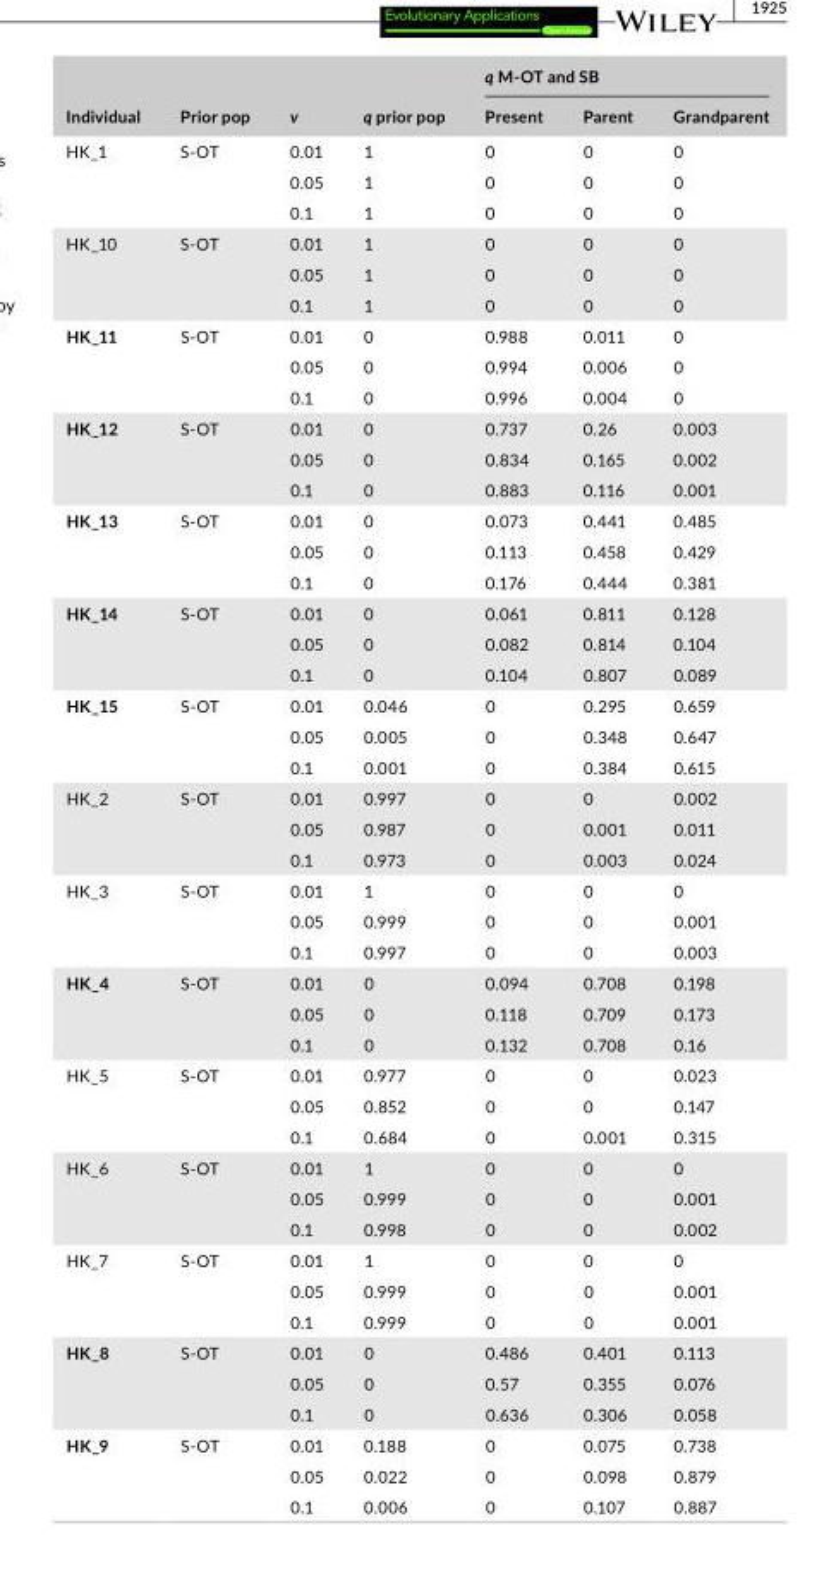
<table><thead><tr><td rowspan="2">Individual</td><td rowspan="2">Prior pop</td><td rowspan="2">v</td><td rowspan="2">q prior pop</td><td colspan="3">q M- OT and SB</td></tr><tr><td>Present</td><td>Parent</td><td>Grandparent</td></tr></thead><tbody><tr><td rowspan="3">HK_1</td><td rowspan="3">S- OT</td><td>0.01</td><td>1</td><td>0</td><td>0</td><td>0</td></tr><tr><td>0.05</td><td>1</td><td>0</td><td>0</td><td>0</td></tr><tr><td>0.1</td><td>1</td><td>0</td><td>0</td><td>0</td></tr><tr><td rowspan="3">HK_10</td><td rowspan="3">S- OT</td><td>0.01</td><td>1</td><td>0</td><td>0</td><td>0</td></tr><tr><td>0.05</td><td>1</td><td>0</td><td>0</td><td>0</td></tr><tr><td>0.1</td><td>1</td><td>0</td><td>0</td><td>0</td></tr><tr><td rowspan="3">HK_11</td><td rowspan="3">S- OT</td><td>0.01</td><td>0</td><td>0.988</td><td>0.011</td><td>0</td></tr><tr><td>0.05</td><td>0</td><td>0.994</td><td>0.006</td><td>0</td></tr><tr><td>0.1</td><td>0</td><td>0.996</td><td>0.004</td><td>0</td></tr><tr><td rowspan="3">HK_12</td><td rowspan="3">S- OT</td><td>0.01</td><td>0</td><td>0.737</td><td>0.26</td><td>0.003</td></tr><tr><td>0.05</td><td>0</td><td>0.834</td><td>0.165</td><td>0.002</td></tr><tr><td>0.1</td><td>0</td><td>0.883</td><td>0.116</td><td>0.001</td></tr><tr><td rowspan="3">HK_13</td><td rowspan="3">S- OT</td><td>0.01</td><td>0</td><td>0.073</td><td>0.441</td><td>0.485</td></tr><tr><td>0.05</td><td>0</td><td>0.113</td><td>0.458</td><td>0.429</td></tr><tr><td>0.1</td><td>0</td><td>0.176</td><td>0.444</td><td>0.381</td></tr><tr><td rowspan="3">HK_14</td><td rowspan="3">S- OT</td><td>0.01</td><td>0</td><td>0.061</td><td>0.811</td><td>0.128</td></tr><tr><td>0.05</td><td>0</td><td>0.082</td><td>0.814</td><td>0.104</td></tr><tr><td>0.1</td><td>0</td><td>0.104</td><td>0.807</td><td>0.089</td></tr><tr><td rowspan="3">HK_15</td><td rowspan="3">S- OT</td><td>0.01</td><td>0.046</td><td>0</td><td>0.295</td><td>0.659</td></tr><tr><td>0.05</td><td>0.005</td><td>0</td><td>0.348</td><td>0.647</td></tr><tr><td>0.1</td><td>0.001</td><td>0</td><td>0.384</td><td>0.615</td></tr><tr><td rowspan="3">HK_2</td><td rowspan="3">S- OT</td><td>0.01</td><td>0.997</td><td>0</td><td>0</td><td>0.002</td></tr><tr><td>0.05</td><td>0.987</td><td>0</td><td>0.001</td><td>0.011</td></tr><tr><td>0.1</td><td>0.973</td><td>0</td><td>0.003</td><td>0.024</td></tr><tr><td rowspan="3">HK_3</td><td rowspan="3">S- OT</td><td>0.01</td><td>1</td><td>0</td><td>0</td><td>0</td></tr><tr><td>0.05</td><td>0.999</td><td>0</td><td>0</td><td>0.001</td></tr><tr><td>0.1</td><td>0.997</td><td>0</td><td>0</td><td>0.003</td></tr><tr><td rowspan="3">HK_4</td><td rowspan="3">S- OT</td><td>0.01</td><td>0</td><td>0.094</td><td>0.708</td><td>0.198</td></tr><tr><td>0.05</td><td>0</td><td>0.118</td><td>0.709</td><td>0.173</td></tr><tr><td>0.1</td><td>0</td><td>0.132</td><td>0.708</td><td>0.16</td></tr><tr><td rowspan="3">HK_5</td><td rowspan="3">S- OT</td><td>0.01</td><td>0.977</td><td>0</td><td>0</td><td>0.023</td></tr><tr><td>0.05</td><td>0.852</td><td>0</td><td>0</td><td>0.147</td></tr><tr><td>0.1</td><td>0.684</td><td>0</td><td>0.001</td><td>0.315</td></tr><tr><td rowspan="3">HK_6</td><td rowspan="3">S- OT</td><td>0.01</td><td>1</td><td>0</td><td>0</td><td>0</td></tr><tr><td>0.05</td><td>0.999</td><td>0</td><td>0</td><td>0.001</td></tr><tr><td>0.1</td><td>0.998</td><td>0</td><td>0</td><td>0.002</td></tr><tr><td rowspan="3">HK_7</td><td rowspan="3">S- OT</td><td>0.01</td><td>1</td><td>0</td><td>0</td><td>0</td></tr><tr><td>0.05</td><td>0.999</td><td>0</td><td>0</td><td>0.001</td></tr><tr><td>0.1</td><td>0.999</td><td>0</td><td>0</td><td>0.001</td></tr><tr><td rowspan="3">HK_8</td><td rowspan="3">S- OT</td><td>0.01</td><td>0</td><td>0.486</td><td>0.401</td><td>0.113</td></tr><tr><td>0.05</td><td>0</td><td>0.57</td><td>0.355</td><td>0.076</td></tr><tr><td>0.1</td><td>0</td><td>0.636</td><td>0.306</td><td>0.058</td></tr><tr><td rowspan="3">HK_9</td><td rowspan="3">S- OT</td><td>0.01</td><td>0.188</td><td>0</td><td>0.075</td><td>0.738</td></tr><tr><td>0.05</td><td>0.022</td><td>0</td><td>0.098</td><td>0.879</td></tr><tr><td>0.1</td><td>0.006</td><td>0</td><td>0.107</td><td>0.887</td></tr></tbody></table>